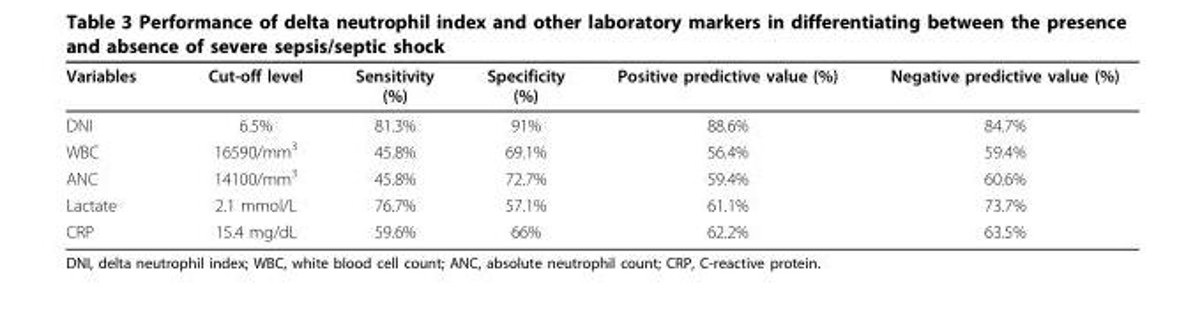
<table><thead><tr><td>Variables</td><td>Cut-off level</td><td>Sensitivity (%)</td><td>Specificity (%)</td><td>Positive predictive value (%)</td><td>Negative predictive value (%)</td></tr></thead><tbody><tr><td>DNI</td><td>6.5%</td><td>81.3%</td><td>91%</td><td>88.6%</td><td>84.7%</td></tr><tr><td>WBC</td><td>16590/mm<sup>3</sup></td><td>45.8%</td><td>69.1%</td><td>56.4%</td><td>59.4%</td></tr><tr><td>ANC</td><td>14100/mm<sup>3</sup></td><td>45.8%</td><td>72.7%</td><td>59.4%</td><td>60.6%</td></tr><tr><td>Lactate</td><td>2.1 mmol/L</td><td>76.7%</td><td>57.1%</td><td>61.1%</td><td>73.7%</td></tr><tr><td>CRP</td><td>15.4 mg/dL</td><td>59.6%</td><td>66%</td><td>62.2%</td><td>63.5%</td></tr></tbody></table>